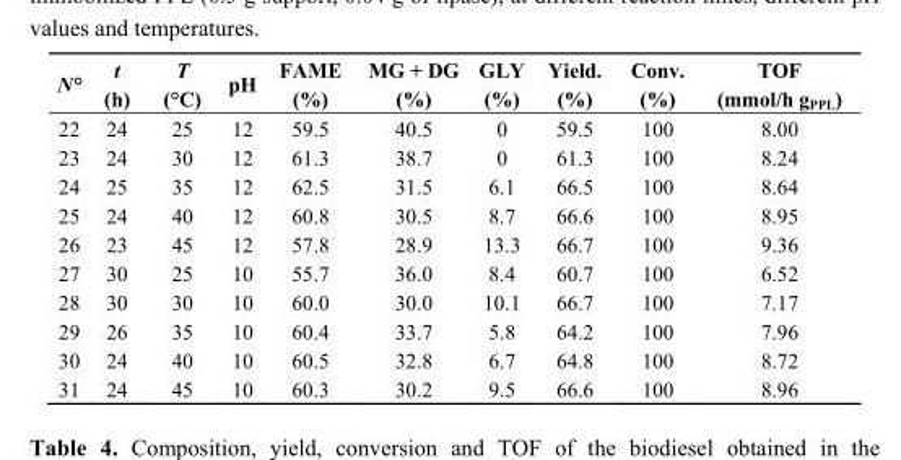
<table><thead><tr><td>N°</td><td>t (h)</td><td>T (°C)</td><td>pH</td><td>FAME (%)</td><td>MG + DG (%)</td><td>GLY (%)</td><td>Yield. (%)</td><td>Conv. (%)</td><td>TOF (mmol/h g<sub>PPL</sub>)</td></tr></thead><tbody><tr><td>22</td><td>24</td><td>25</td><td>12</td><td>59.5</td><td>40.5</td><td>0</td><td>59.5</td><td>100</td><td>8.00</td></tr><tr><td>23</td><td>24</td><td>30</td><td>12</td><td>61.3</td><td>38.7</td><td>0</td><td>61.3</td><td>100</td><td>8.24</td></tr><tr><td>24</td><td>25</td><td>35</td><td>12</td><td>62.5</td><td>31.5</td><td>6.1</td><td>66.5</td><td>100</td><td>8.64</td></tr><tr><td>25</td><td>24</td><td>40</td><td>12</td><td>60.8</td><td>30.5</td><td>8.7</td><td>66.6</td><td>100</td><td>8.95</td></tr><tr><td>26</td><td>23</td><td>45</td><td>12</td><td>57.8</td><td>28.9</td><td>13.3</td><td>66.7</td><td>100</td><td>9.36</td></tr><tr><td>27</td><td>30</td><td>25</td><td>10</td><td>55.7</td><td>36.0</td><td>8.4</td><td>60.7</td><td>100</td><td>6.52</td></tr><tr><td>28</td><td>30</td><td>30</td><td>10</td><td>60.0</td><td>30.0</td><td>10.1</td><td>66.7</td><td>100</td><td>7.17</td></tr><tr><td>29</td><td>26</td><td>35</td><td>10</td><td>60.4</td><td>33.7</td><td>5.8</td><td>64.2</td><td>100</td><td>7.96</td></tr><tr><td>30</td><td>24</td><td>40</td><td>10</td><td>60.5</td><td>32.8</td><td>6.7</td><td>64.8</td><td>100</td><td>8.72</td></tr><tr><td>31</td><td>24</td><td>45</td><td>10</td><td>60.3</td><td>30.2</td><td>9.5</td><td>66.6</td><td>100</td><td>8.96</td></tr></tbody></table>